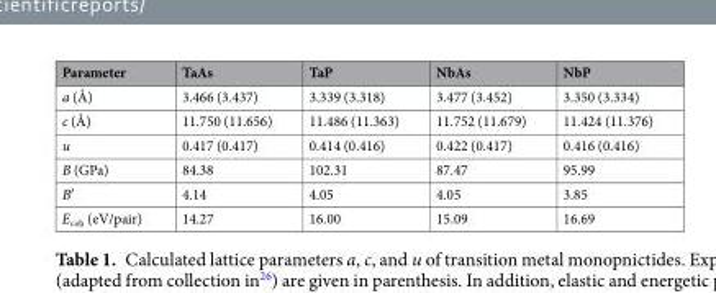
<table><thead><tr><td>Parameter</td><td>TaAs</td><td>TaP</td><td>NbAs</td><td>NbP</td></tr></thead><tbody><tr><td>a (Å)</td><td>3.466 (3.437)</td><td>3.339 (3.318)</td><td>3.477 (3.452)</td><td>3.350 (3.334)</td></tr><tr><td>c (Å)</td><td>11.750 (11.656)</td><td>11.486 (11.363)</td><td>11.752 (11.679)</td><td>11.424 (11.376)</td></tr><tr><td>u</td><td>0.417 (0.417)</td><td>0.414 (0.416)</td><td>0.422 (0.417)</td><td>0.416 (0.416)</td></tr><tr><td>B (GPa)</td><td>84.38</td><td>102.31</td><td>87.47</td><td>95.99</td></tr><tr><td>B′</td><td>4.14</td><td>4.05</td><td>4.05</td><td>3.85</td></tr><tr><td>E<sub>coh</sub> (eV/pair)</td><td>14.27</td><td>16.00</td><td>15.09</td><td>16.69</td></tr></tbody></table>